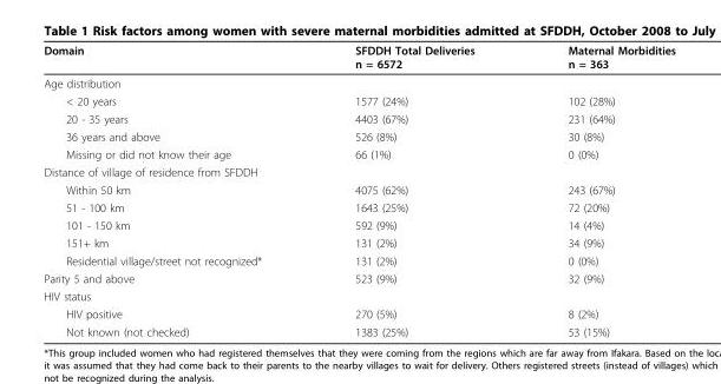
<table><thead><tr><td>Domain</td><td>SFDDH Total Deliveries n = 6572</td><td>Maternal Morbidities n = 363</td></tr></thead><tbody><tr><td colspan="3">Age distribution</td></tr><tr><td>&lt; 20 years</td><td>1577 (24%)</td><td>102 (28%)</td></tr><tr><td>20 - 35 years</td><td>4403 (67%)</td><td>231 (64%)</td></tr><tr><td>36 years and above</td><td>526 (8%)</td><td>30 (8%)</td></tr><tr><td>Missing or did not know their age</td><td>66 (1%)</td><td>0 (0%)</td></tr><tr><td colspan="3">Distance of village of residence from SFDDH</td></tr><tr><td>Within 50 km</td><td>4075 (62%)</td><td>243 (67%)</td></tr><tr><td>51 - 100 km</td><td>1643 (25%)</td><td>72 (20%)</td></tr><tr><td>101 - 150 km</td><td>592 (9%)</td><td>14 (4%)</td></tr><tr><td>151+ km</td><td>131 (2%)</td><td>34 (9%)</td></tr><tr><td>Residential village/street not recognized*</td><td>131 (2%)</td><td>0 (0%)</td></tr><tr><td>Parity 5 and above</td><td>523 (9%)</td><td>32 (9%)</td></tr><tr><td colspan="3">HIV status</td></tr><tr><td>HIV positive</td><td>270 (5%)</td><td>8 (2%)</td></tr><tr><td>Not known (not checked)</td><td>1383 (25%)</td><td>53 (15%)</td></tr></tbody></table>